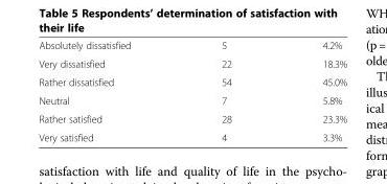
<table><tbody><tr><td>Absolutely dissatisfied</td><td>5</td><td>4.2%</td></tr><tr><td>Very dissatisfied</td><td>22</td><td>18.3%</td></tr><tr><td>Rather dissatisfied</td><td>54</td><td>45.0%</td></tr><tr><td>Neutral</td><td>7</td><td>5.8%</td></tr><tr><td>Rather satisfied</td><td>28</td><td>23.3%</td></tr><tr><td>Very satisfied</td><td>4</td><td>3.3%</td></tr></tbody></table>